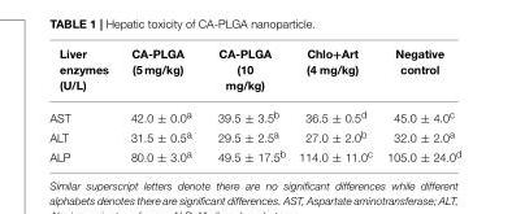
<table><thead><tr><td>Liver enzymes (U/L)</td><td>CA-PLGA (5 mg/kg)</td><td>CA-PLGA (10 mg/kg)</td><td>Chlo+Art (4 mg/kg)</td><td>Negative control</td></tr></thead><tbody><tr><td>AST</td><td>42.0 ± 0.0<sup>a</sup></td><td>39.5 ± 3.5<sup>b</sup></td><td>36.5 ± 0.5<sup>d</sup></td><td>45.0 ± 4.0<sup>c</sup></td></tr><tr><td>ALT</td><td>31.5 ± 0.5<sup>a</sup></td><td>29.5 ± 2.5<sup>a</sup></td><td>27.0 ± 2.0<sup>b</sup></td><td>32.0 ± 2.0<sup>a</sup></td></tr><tr><td>ALP</td><td>80.0 ± 3.0<sup>a</sup></td><td>49.5 ± 17.5<sup>b</sup></td><td>114.0 ± 11.0<sup>c</sup></td><td>105.0 ± 24.0<sup>d</sup></td></tr></tbody></table>